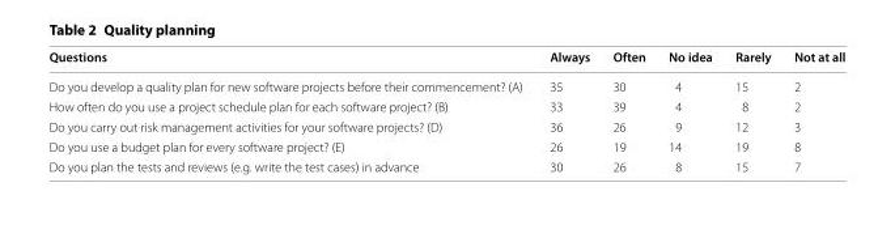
<table><thead><tr><td>Questions</td><td>Always</td><td>Often</td><td>No idea</td><td>Rarely</td><td>Not at all</td></tr></thead><tbody><tr><td>Do you develop a quality plan for new software projects before their commencement? (A)</td><td>35</td><td>30</td><td>4</td><td>15</td><td>2</td></tr><tr><td>How often do you use a project schedule plan for each software project? (B)</td><td>33</td><td>39</td><td>4</td><td>8</td><td>2</td></tr><tr><td>Do you carry out risk management activities for your software projects? (D)</td><td>36</td><td>26</td><td>9</td><td>12</td><td>3</td></tr><tr><td>Do you use a budget plan for every software project? (E)</td><td>26</td><td>19</td><td>14</td><td>19</td><td>8</td></tr><tr><td>Do you plan the tests and reviews (e.g. write the test cases) in advance</td><td>30</td><td>26</td><td>8</td><td>15</td><td>7</td></tr></tbody></table>